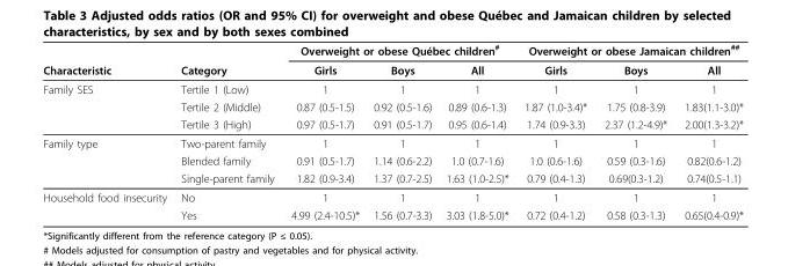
<table><thead><tr><td rowspan="2">Characteristic</td><td rowspan="2">Category</td><td colspan="3">Overweight or obese Québec children<sup>#</sup></td><td colspan="3">Overweight or obese Jamaican children<sup>##</sup></td></tr><tr><td>Girls</td><td>Boys</td><td>All</td><td>Girls</td><td>Boys</td><td>All</td></tr></thead><tbody><tr><td rowspan="3">Family SES</td><td>Tertile 1 (Low)</td><td>1</td><td>1</td><td>1</td><td>1</td><td>1</td><td>1</td></tr><tr><td>Tertile 2 (Middle)</td><td>0.87 (0.5-1.5)</td><td>0.92 (0.5-1.6)</td><td>0.89 (0.6-1.3)</td><td>1.87 (1.0-3.4)*</td><td>1.75 (0.8-3.9)</td><td>1.83(1.1-3.0)*</td></tr><tr><td>Tertile 3 (High)</td><td>0.97 (0.5-1.7)</td><td>0.91 (0.5-1.7)</td><td>0.95 (0.6-1.4)</td><td>1.74 (0.9-3.3)</td><td>2.37 (1.2-4.9)*</td><td>2.00(1.3-3.2)*</td></tr><tr><td rowspan="3">Family type</td><td>Two-parent family</td><td>1</td><td>1</td><td>1</td><td>1</td><td>1</td><td>1</td></tr><tr><td>Blended family</td><td>0.91 (0.5-1.7)</td><td>1.14 (0.6-2.2)</td><td>1.0 (0.7-1.6)</td><td>1.0 (0.6-1.6)</td><td>0.59 (0.3-1.6)</td><td>0.82(0.6-1.2)</td></tr><tr><td>Single-parent family</td><td>1.82 (0.9-3.4)</td><td>1.37 (0.7-2.5)</td><td>1.63 (1.0-2.5)*</td><td>0.79 (0.4-1.3)</td><td>0.69(0.3-1.2)</td><td>0.74(0.5-1.1)</td></tr><tr><td rowspan="2">Household food insecurity</td><td>No</td><td>1</td><td>1</td><td>1</td><td>1</td><td>1</td><td>1</td></tr><tr><td>Yes</td><td>4.99 (2.4-10.5)*</td><td>1.56 (0.7-3.3)</td><td>3.03 (1.8-5.0)*</td><td>0.72 (0.4-1.2)</td><td>0.58 (0.3-1.3)</td><td>0.65(0.4-0.9)*</td></tr></tbody></table>